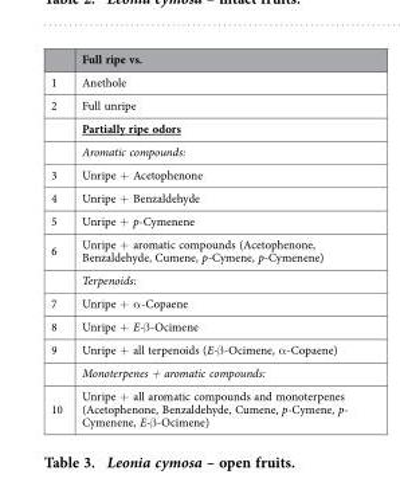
<table><thead><tr><td></td><td>Full ripe vs.</td></tr></thead><tbody><tr><td>1</td><td>Anethole</td></tr><tr><td rowspan="3">2</td><td>Full unripe</td></tr><tr><td>Partially ripe odors</td></tr><tr><td>Aromatic compounds:</td></tr><tr><td>3</td><td>Unripe + Acetophenone</td></tr><tr><td>4</td><td>Unripe + Benzaldehyde</td></tr><tr><td>5</td><td>Unripe + p-Cymenene</td></tr><tr><td rowspan="2">6</td><td>Unripe + aromatic compounds (Acetophenone, Benzaldehyde, Cumene, p-Cymene, p-Cymenene)</td></tr><tr><td>Terpenoids:</td></tr><tr><td>7</td><td>Unripe + α -Copaene</td></tr><tr><td>8</td><td>Unripe + E-β -Ocimene</td></tr><tr><td rowspan="2">9</td><td>Unripe + all terpenoids (E-β -Ocimene, α -Copaene)</td></tr><tr><td>Monoterpenes + aromatic compounds:</td></tr><tr><td>10</td><td>Unripe + all aromatic compounds and monoterpenes (Acetophenone, Benzaldehyde, Cumene, p-Cymene, p- Cymenene, E-β -Ocimene)</td></tr></tbody></table>